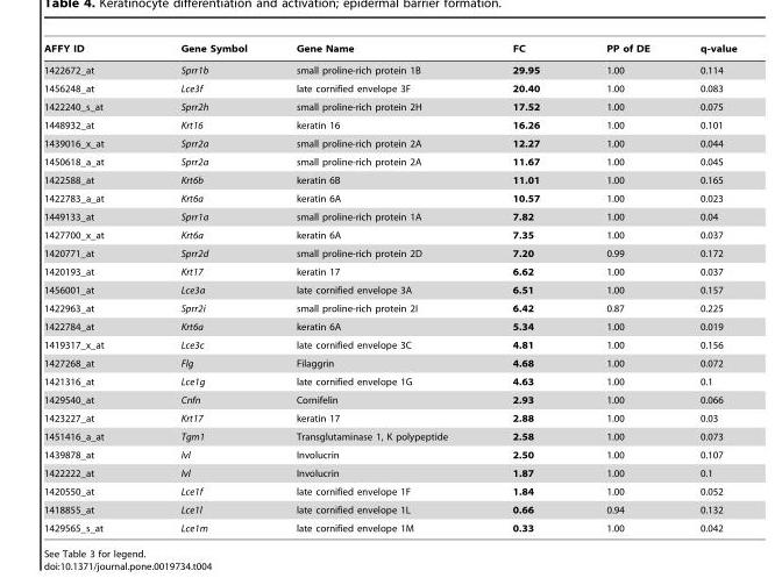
<table><thead><tr><td>AFFY ID</td><td>Gene Symbol</td><td>Gene Name</td><td>FC</td><td>PP of DE</td><td>q-value</td></tr></thead><tbody><tr><td>1422672_at</td><td>Sprr1b</td><td>small proline-rich protein 1B</td><td>29.95</td><td>1.00</td><td>0.114</td></tr><tr><td>1456248_at</td><td>Lce3f</td><td>late cornified envelope 3F</td><td>20.40</td><td>1.00</td><td>0.083</td></tr><tr><td>1422240_s_at</td><td>Sprr2h</td><td>small proline-rich protein 2H</td><td>17.52</td><td>1.00</td><td>0.075</td></tr><tr><td>1448932_at</td><td>Krt16</td><td>keratin 16</td><td>16.26</td><td>1.00</td><td>0.101</td></tr><tr><td>1439016_x_at</td><td>Sprr2a</td><td>small proline-rich protein 2A</td><td>12.27</td><td>1.00</td><td>0.044</td></tr><tr><td>1450618_a_at</td><td>Sprr2a</td><td>small proline-rich protein 2A</td><td>11.67</td><td>1.00</td><td>0.045</td></tr><tr><td>1422588_at</td><td>Krt6b</td><td>keratin 6B</td><td>11.01</td><td>1.00</td><td>0.165</td></tr><tr><td>1422783_a_at</td><td>Krt6a</td><td>keratin 6A</td><td>10.57</td><td>1.00</td><td>0.023</td></tr><tr><td>1449133_at</td><td>Sprr1a</td><td>small proline-rich protein 1A</td><td>7.82</td><td>1.00</td><td>0.04</td></tr><tr><td>1427700_x_at</td><td>Krt6a</td><td>keratin 6A</td><td>7.35</td><td>1.00</td><td>0.037</td></tr><tr><td>1420771_at</td><td>Sprr2d</td><td>small proline-rich protein 2D</td><td>7.20</td><td>0.99</td><td>0.172</td></tr><tr><td>1420193_at</td><td>Krt17</td><td>keratin 17</td><td>6.62</td><td>1.00</td><td>0.037</td></tr><tr><td>1456001_at</td><td>Lce3a</td><td>late cornified envelope 3A</td><td>6.51</td><td>1.00</td><td>0.157</td></tr><tr><td>1422963_at</td><td>Sprr2i</td><td>small proline-rich protein 2I</td><td>6.42</td><td>0.87</td><td>0.225</td></tr><tr><td>1422784_at</td><td>Krt6a</td><td>keratin 6A</td><td>5.34</td><td>1.00</td><td>0.019</td></tr><tr><td>1419317_x_at</td><td>Lce3c</td><td>late cornified envelope 3C</td><td>4.81</td><td>1.00</td><td>0.156</td></tr><tr><td>1427268_at</td><td>Flg</td><td>Filaggrin</td><td>4.68</td><td>1.00</td><td>0.072</td></tr><tr><td>1421316_at</td><td>Lce1g</td><td>late cornified envelope 1G</td><td>4.63</td><td>1.00</td><td>0.1</td></tr><tr><td>1429540_at</td><td>Cnfn</td><td>Cornifelin</td><td>2.93</td><td>1.00</td><td>0.066</td></tr><tr><td>1423227_at</td><td>Krt17</td><td>keratin 17</td><td>2.88</td><td>1.00</td><td>0.03</td></tr><tr><td>1451416_a_at</td><td>Tgm1</td><td>Transglutaminase 1, K polypeptide</td><td>2.58</td><td>1.00</td><td>0.073</td></tr><tr><td>1439878_at</td><td>Ivl</td><td>Involucrin</td><td>2.50</td><td>1.00</td><td>0.107</td></tr><tr><td>1422222_at</td><td>Ivl</td><td>Involucrin</td><td>1.87</td><td>1.00</td><td>0.1</td></tr><tr><td>1420550_at</td><td>Lce1f</td><td>late cornified envelope 1F</td><td>1.84</td><td>1.00</td><td>0.052</td></tr><tr><td>1418855_at</td><td>Lce1l</td><td>late cornified envelope 1L</td><td>0.66</td><td>0.94</td><td>0.132</td></tr><tr><td>1429565_s_at</td><td>Lce1m</td><td>late cornified envelope 1M</td><td>0.33</td><td>1.00</td><td>0.042</td></tr></tbody></table>